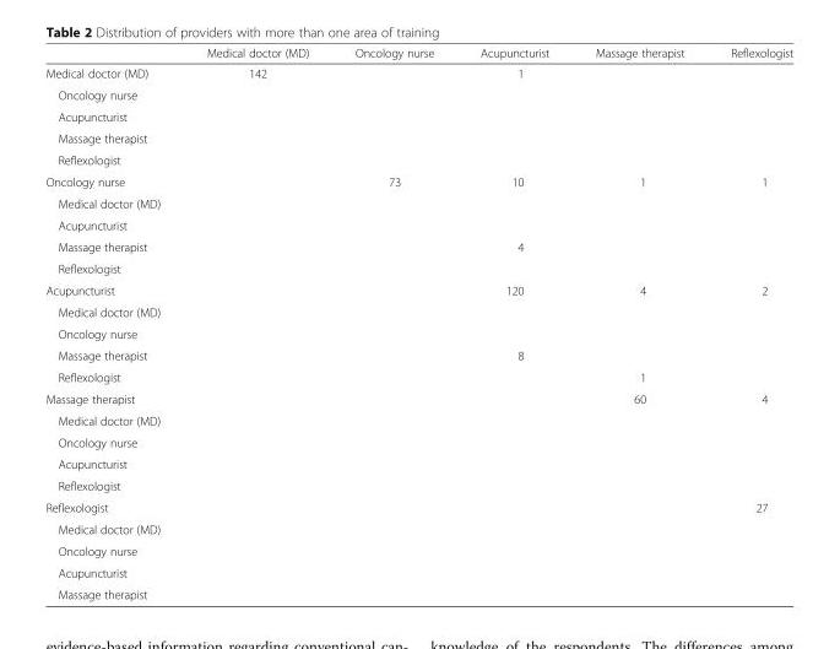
<table><thead><tr><td></td><td>Medical doctor (MD)</td><td>Oncology nurse</td><td>Acupuncturist</td><td>Massage therapist</td><td>Reflexologist</td></tr></thead><tbody><tr><td>Medical doctor (MD)</td><td>142</td><td></td><td>1</td><td></td><td></td></tr><tr><td colspan="6">Oncology nurse</td></tr><tr><td colspan="6">Acupuncturist</td></tr><tr><td colspan="6">Massage therapist</td></tr><tr><td colspan="6">Reflexologist</td></tr><tr><td>Oncology nurse</td><td></td><td>73</td><td>10</td><td>1</td><td>1</td></tr><tr><td colspan="6">Medical doctor (MD)</td></tr><tr><td colspan="6">Acupuncturist</td></tr><tr><td>Massage therapist</td><td></td><td></td><td>4</td><td></td><td></td></tr><tr><td colspan="6">Reflexologist</td></tr><tr><td>Acupuncturist</td><td></td><td></td><td>120</td><td>4</td><td>2</td></tr><tr><td colspan="6">Medical doctor (MD)</td></tr><tr><td colspan="6">Oncology nurse</td></tr><tr><td>Massage therapist</td><td></td><td></td><td>8</td><td></td><td></td></tr><tr><td>Reflexologist</td><td></td><td></td><td></td><td>1</td><td></td></tr><tr><td>Massage therapist</td><td></td><td></td><td></td><td>60</td><td>4</td></tr><tr><td colspan="6">Medical doctor (MD)</td></tr><tr><td colspan="6">Oncology nurse</td></tr><tr><td colspan="6">Acupuncturist</td></tr><tr><td colspan="6">Reflexologist</td></tr><tr><td>Reflexologist</td><td></td><td></td><td></td><td></td><td>27</td></tr><tr><td colspan="6">Medical doctor (MD)</td></tr><tr><td colspan="6">Oncology nurse</td></tr><tr><td colspan="6">Acupuncturist</td></tr><tr><td>Massage therapist</td><td></td><td></td><td></td><td></td><td></td></tr></tbody></table>